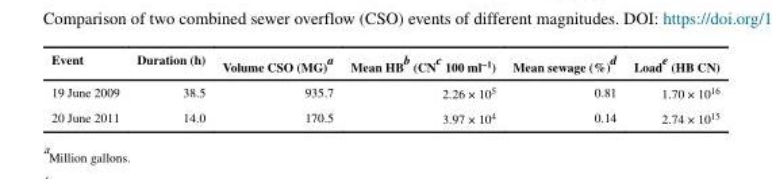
<table><thead><tr><td>Event</td><td>Duration (h)</td><td>Volume CSO (MG)<sup>a</sup></td><td>Mean HB<sup>b</sup> (CN<sup>c</sup> 100 ml<sup>−1</sup>)</td><td>Mean sewage (%)<sup>d</sup></td><td>Load<sup>e</sup> (HB CN)</td></tr></thead><tbody><tr><td>19 June 2009</td><td>38.5</td><td>935.7</td><td>2.26 × 10<sup>5</sup></td><td>0.81</td><td>1.70 × 10<sup>16</sup></td></tr><tr><td>20 June 2011</td><td>14.0</td><td>170.5</td><td>3.97 × 10<sup>4</sup></td><td>0.14</td><td>2.74 × 10<sup>15</sup></td></tr></tbody></table>